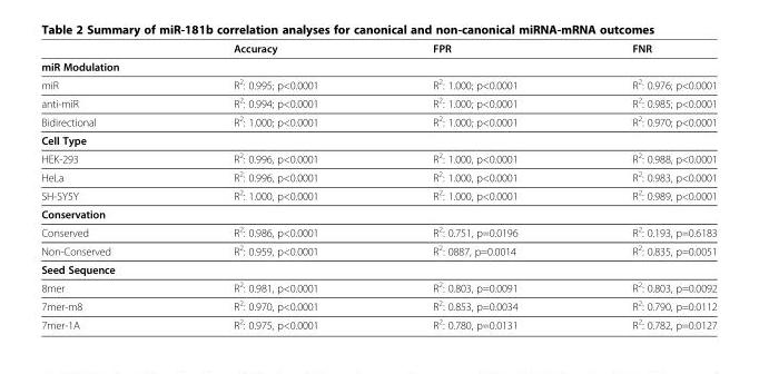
<table><thead><tr><td></td><td>Accuracy</td><td>FPR</td><td>FNR</td></tr></thead><tbody><tr><td colspan="4">miR Modulation</td></tr><tr><td>miR</td><td>R<sup>2</sup>: 0.995; p&lt;0.0001</td><td>R<sup>2</sup>: 1.000; p&lt;0.0001</td><td>R<sup>2</sup>: 0.976; p&lt;0.0001</td></tr><tr><td>anti-miR</td><td>R<sup>2</sup>: 0.994; p&lt;0.0001</td><td>R<sup>2</sup>: 1.000; p&lt;0.0001</td><td>R<sup>2</sup>: 0.985; p&lt;0.0001</td></tr><tr><td>Bidirectional</td><td>R<sup>2</sup>: 1.000; p&lt;0.0001</td><td>R<sup>2</sup>: 1.000; p&lt;0.0001</td><td>R<sup>2</sup>: 0.970; p&lt;0.0001</td></tr><tr><td colspan="4">Cell Type</td></tr><tr><td>HEK-293</td><td>R<sup>2</sup>: 0.996, p&lt;0.0001</td><td>R<sup>2</sup>: 1.000, p&lt;0.0001</td><td>R<sup>2</sup>: 0.988, p&lt;0.0001</td></tr><tr><td>HeLa</td><td>R<sup>2</sup>: 0.996, p&lt;0.0001</td><td>R<sup>2</sup>: 1.000, p&lt;0.0001</td><td>R<sup>2</sup>: 0.983, p&lt;0.0001</td></tr><tr><td>SH-SY5Y</td><td>R<sup>2</sup>: 1.000, p&lt;0.0001</td><td>R<sup>2</sup>: 1.000, p&lt;0.0001</td><td>R<sup>2</sup>: 0.989, p&lt;0.0001</td></tr><tr><td colspan="4">Conservation</td></tr><tr><td>Conserved</td><td>R<sup>2</sup>: 0.986, p&lt;0.0001</td><td>R<sup>2</sup>: 0.751, p=0.0196</td><td>R<sup>2</sup>: 0.193, p=0.6183</td></tr><tr><td>Non-Conserved</td><td>R<sup>2</sup>: 0.959, p&lt;0.0001</td><td>R<sup>2</sup>: 0887, p=0.0014</td><td>R<sup>2</sup>: 0.835, p=0.0051</td></tr><tr><td colspan="4">Seed Sequence</td></tr><tr><td>8mer</td><td>R<sup>2</sup>: 0.981, p&lt;0.0001</td><td>R<sup>2</sup>: 0.803, p=0.0091</td><td>R<sup>2</sup>: 0.803, p=0.0092</td></tr><tr><td>7mer-m8</td><td>R<sup>2</sup>: 0.970, p&lt;0.0001</td><td>R<sup>2</sup>: 0.853, p=0.0034</td><td>R<sup>2</sup>: 0.790, p=0.0112</td></tr><tr><td>7mer-1A</td><td>R<sup>2</sup>: 0.975, p&lt;0.0001</td><td>R<sup>2</sup>: 0.780, p=0.0131</td><td>R<sup>2</sup>: 0.782, p=0.0127</td></tr></tbody></table>